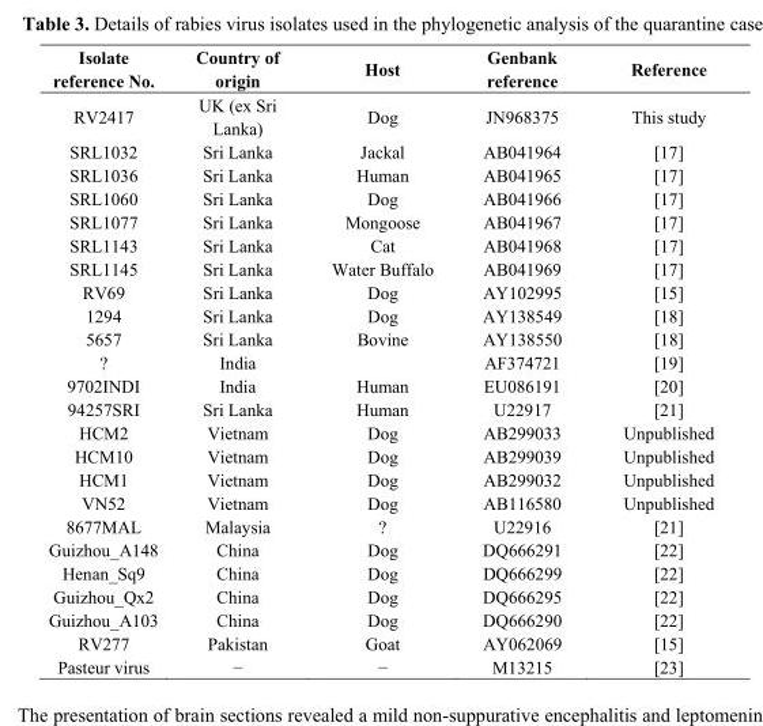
<table><thead><tr><td>Isolate reference No.</td><td>Country of origin</td><td>Host</td><td>Genbank reference</td><td>Reference</td></tr></thead><tbody><tr><td>RV2417</td><td>UK (ex Sri Lanka)</td><td>Dog</td><td>JN968375</td><td>This study</td></tr><tr><td>SRL1032</td><td>Sri Lanka</td><td>Jackal</td><td>AB041964</td><td>[17]</td></tr><tr><td>SRL1036</td><td>Sri Lanka</td><td>Human</td><td>AB041965</td><td>[17]</td></tr><tr><td>SRL1060</td><td>Sri Lanka</td><td>Dog</td><td>AB041966</td><td>[17]</td></tr><tr><td>SRL1077</td><td>Sri Lanka</td><td>Mongoose</td><td>AB041967</td><td>[17]</td></tr><tr><td>SRL1143</td><td>Sri Lanka</td><td>Cat</td><td>AB041968</td><td>[17]</td></tr><tr><td>SRL1145</td><td>Sri Lanka</td><td>Water Buffalo</td><td>AB041969</td><td>[17]</td></tr><tr><td>RV69</td><td>Sri Lanka</td><td>Dog</td><td>AY102995</td><td>[15]</td></tr><tr><td>1294</td><td>Sri Lanka</td><td>Dog</td><td>AY138549</td><td>[18]</td></tr><tr><td>5657</td><td>Sri Lanka</td><td>Bovine</td><td>AY138550</td><td>[18]</td></tr><tr><td>?</td><td>India</td><td></td><td>AF374721</td><td>[19]</td></tr><tr><td>9702INDI</td><td>India</td><td>Human</td><td>EU086191</td><td>[20]</td></tr><tr><td>94257SRI</td><td>Sri Lanka</td><td>Human</td><td>U22917</td><td>[21]</td></tr><tr><td>HCM2</td><td>Vietnam</td><td>Dog</td><td>AB299033</td><td>Unpublished</td></tr><tr><td>HCM10</td><td>Vietnam</td><td>Dog</td><td>AB299039</td><td>Unpublished</td></tr><tr><td>HCM1</td><td>Vietnam</td><td>Dog</td><td>AB299032</td><td>Unpublished</td></tr><tr><td>VN52</td><td>Vietnam</td><td>Dog</td><td>AB116580</td><td>Unpublished</td></tr><tr><td>8677MAL</td><td>Malaysia</td><td>?</td><td>U22916</td><td>[21]</td></tr><tr><td>Guizhou_A148</td><td>China</td><td>Dog</td><td>DQ666291</td><td>[22]</td></tr><tr><td>Henan_Sq9</td><td>China</td><td>Dog</td><td>DQ666299</td><td>[22]</td></tr><tr><td>Guizhou_Qx2</td><td>China</td><td>Dog</td><td>DQ666295</td><td>[22]</td></tr><tr><td>Guizhou_A103</td><td>China</td><td>Dog</td><td>DQ666290</td><td>[22]</td></tr><tr><td>RV277</td><td>Pakistan</td><td>Goat</td><td>AY062069</td><td>[15]</td></tr><tr><td>Pasteur virus</td><td>−</td><td>−</td><td>M13215</td><td>[23]</td></tr></tbody></table>